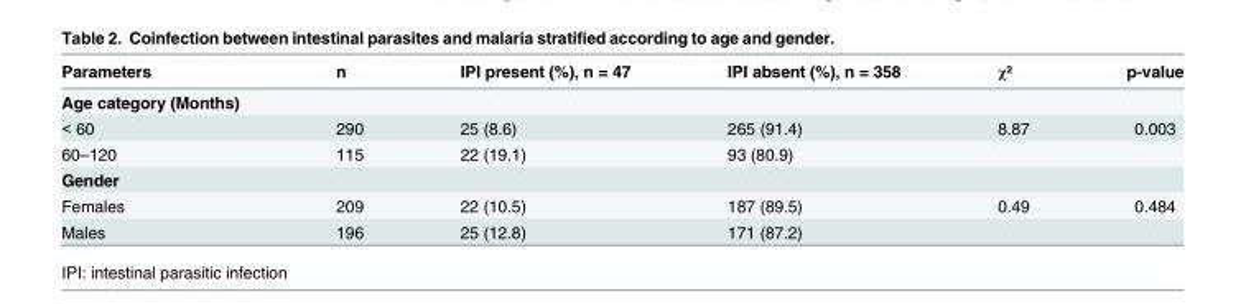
<table><thead><tr><td>Parameters</td><td>n</td><td>IPI present (%), n = 47</td><td>IPI absent (%), n = 358</td><td>χ²</td><td>p-value</td></tr></thead><tbody><tr><td colspan="6">Age category (Months)</td></tr><tr><td>&lt; 60</td><td>290</td><td>25 (8.6)</td><td>265 (91.4)</td><td>8.87</td><td>0.003</td></tr><tr><td>60–120</td><td>115</td><td>22 (19.1)</td><td>93 (80.9)</td><td></td><td></td></tr><tr><td colspan="6">Gender</td></tr><tr><td>Females</td><td>209</td><td>22 (10.5)</td><td>187 (89.5)</td><td>0.49</td><td>0.484</td></tr><tr><td>Males</td><td>196</td><td>25 (12.8)</td><td>171 (87.2)</td><td></td><td></td></tr></tbody></table>